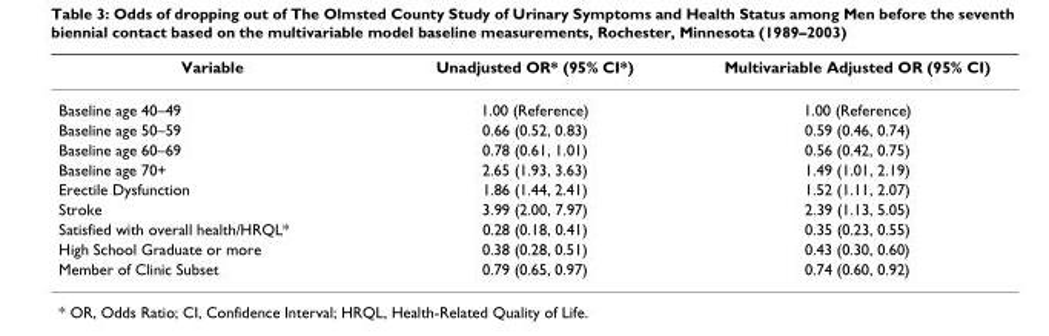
<table><thead><tr><td>Variable</td><td>Unadjusted OR* (95% CI*)</td><td>Multivariable Adjusted OR (95% CI)</td></tr></thead><tbody><tr><td>Baseline age 40–49</td><td>1.00 (Reference)</td><td>1.00 (Reference)</td></tr><tr><td>Baseline age 50–59</td><td>0.66 (0.52, 0.83)</td><td>0.59 (0.46, 0.74)</td></tr><tr><td>Baseline age 60–69</td><td>0.78 (0.61, 1.01)</td><td>0.56 (0.42, 0.75)</td></tr><tr><td>Baseline age 70+</td><td>2.65 (1.93, 3.63)</td><td>1.49 (1.01, 2.19)</td></tr><tr><td>Erectile Dysfunction</td><td>1.86 (1.44, 2.41)</td><td>1.52 (1.11, 2.07)</td></tr><tr><td>Stroke</td><td>3.99 (2.00, 7.97)</td><td>2.39 (1.13, 5.05)</td></tr><tr><td>Satisfied with overall health/HRQL*</td><td>0.28 (0.18, 0.41)</td><td>0.35 (0.23, 0.55)</td></tr><tr><td>High School Graduate or more</td><td>0.38 (0.28, 0.51)</td><td>0.43 (0.30, 0.60)</td></tr><tr><td>Member of Clinic Subset</td><td>0.79 (0.65, 0.97)</td><td>0.74 (0.60, 0.92)</td></tr></tbody></table>